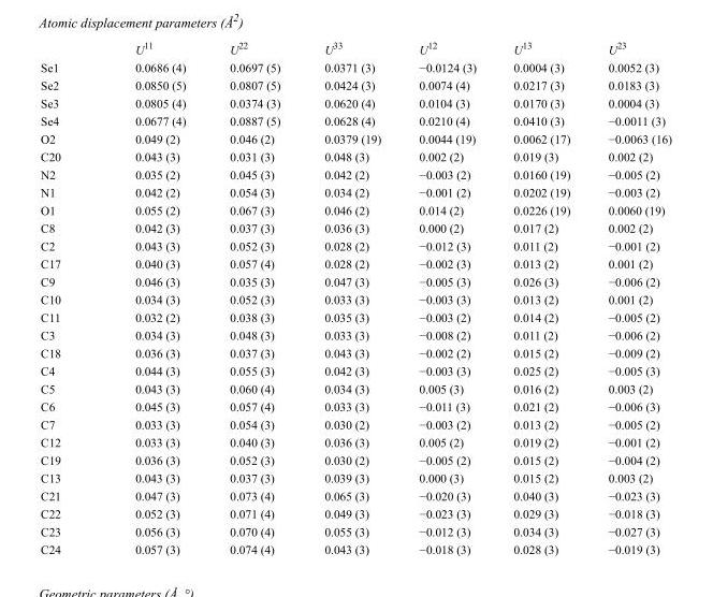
<table><thead><tr><td></td><td>U<sup>11</sup></td><td>U<sup>22</sup></td><td>U<sup>33</sup></td><td>U<sup>12</sup></td><td>U<sup>13</sup></td><td>U<sup>23</sup></td></tr></thead><tbody><tr><td>Se1</td><td>0.0686 (4)</td><td>0.0697 (5)</td><td>0.0371 (3)</td><td>−0.0124 (3)</td><td>0.0004 (3)</td><td>0.0052 (3)</td></tr><tr><td>Se2</td><td>0.0850 (5)</td><td>0.0807 (5)</td><td>0.0424 (3)</td><td>0.0074 (4)</td><td>0.0217 (3)</td><td>0.0183 (3)</td></tr><tr><td>Se3</td><td>0.0805 (4)</td><td>0.0374 (3)</td><td>0.0620 (4)</td><td>0.0104 (3)</td><td>0.0170 (3)</td><td>0.0004 (3)</td></tr><tr><td>Se4</td><td>0.0677 (4)</td><td>0.0887 (5)</td><td>0.0628 (4)</td><td>0.0210 (4)</td><td>0.0410 (3)</td><td>−0.0011 (3)</td></tr><tr><td>O2</td><td>0.049 (2)</td><td>0.046 (2)</td><td>0.0379 (19)</td><td>0.0044 (19)</td><td>0.0062 (17)</td><td>−0.0063 (16)</td></tr><tr><td>C20</td><td>0.043 (3)</td><td>0.031 (3)</td><td>0.048 (3)</td><td>0.002 (2)</td><td>0.019 (3)</td><td>0.002 (2)</td></tr><tr><td>N2</td><td>0.035 (2)</td><td>0.045 (3)</td><td>0.042 (2)</td><td>−0.003 (2)</td><td>0.0160 (19)</td><td>−0.005 (2)</td></tr><tr><td>N1</td><td>0.042 (2)</td><td>0.054 (3)</td><td>0.034 (2)</td><td>−0.001 (2)</td><td>0.0202 (19)</td><td>−0.003 (2)</td></tr><tr><td>O1</td><td>0.055 (2)</td><td>0.067 (3)</td><td>0.046 (2)</td><td>0.014 (2)</td><td>0.0226 (19)</td><td>0.0060 (19)</td></tr><tr><td>C8</td><td>0.042 (3)</td><td>0.037 (3)</td><td>0.036 (3)</td><td>0.000 (2)</td><td>0.017 (2)</td><td>0.002 (2)</td></tr><tr><td>C2</td><td>0.043 (3)</td><td>0.052 (3)</td><td>0.028 (2)</td><td>−0.012 (3)</td><td>0.011 (2)</td><td>−0.001 (2)</td></tr><tr><td>C17</td><td>0.040 (3)</td><td>0.057 (4)</td><td>0.028 (2)</td><td>−0.002 (3)</td><td>0.013 (2)</td><td>0.001 (2)</td></tr><tr><td>C9</td><td>0.046 (3)</td><td>0.035 (3)</td><td>0.047 (3)</td><td>−0.005 (3)</td><td>0.026 (3)</td><td>−0.006 (2)</td></tr><tr><td>C10</td><td>0.034 (3)</td><td>0.052 (3)</td><td>0.033 (3)</td><td>−0.003 (3)</td><td>0.013 (2)</td><td>0.001 (2)</td></tr><tr><td>C11</td><td>0.032 (2)</td><td>0.038 (3)</td><td>0.035 (3)</td><td>−0.003 (2)</td><td>0.014 (2)</td><td>−0.005 (2)</td></tr><tr><td>C3</td><td>0.034 (3)</td><td>0.048 (3)</td><td>0.033 (3)</td><td>−0.008 (2)</td><td>0.011 (2)</td><td>−0.006 (2)</td></tr><tr><td>C18</td><td>0.036 (3)</td><td>0.037 (3)</td><td>0.043 (3)</td><td>−0.002 (2)</td><td>0.015 (2)</td><td>−0.009 (2)</td></tr><tr><td>C4</td><td>0.044 (3)</td><td>0.055 (3)</td><td>0.042 (3)</td><td>−0.003 (3)</td><td>0.025 (2)</td><td>−0.005 (3)</td></tr><tr><td>C5</td><td>0.043 (3)</td><td>0.060 (4)</td><td>0.034 (3)</td><td>0.005 (3)</td><td>0.016 (2)</td><td>0.003 (2)</td></tr><tr><td>C6</td><td>0.045 (3)</td><td>0.057 (4)</td><td>0.033 (3)</td><td>−0.011 (3)</td><td>0.021 (2)</td><td>−0.006 (3)</td></tr><tr><td>C7</td><td>0.033 (3)</td><td>0.054 (3)</td><td>0.030 (2)</td><td>−0.003 (2)</td><td>0.013 (2)</td><td>−0.005 (2)</td></tr><tr><td>C12</td><td>0.033 (3)</td><td>0.040 (3)</td><td>0.036 (3)</td><td>0.005 (2)</td><td>0.019 (2)</td><td>−0.001 (2)</td></tr><tr><td>C19</td><td>0.036 (3)</td><td>0.052 (3)</td><td>0.030 (2)</td><td>−0.005 (2)</td><td>0.015 (2)</td><td>−0.004 (2)</td></tr><tr><td>C13</td><td>0.043 (3)</td><td>0.037 (3)</td><td>0.039 (3)</td><td>0.000 (3)</td><td>0.015 (2)</td><td>0.003 (2)</td></tr><tr><td>C21</td><td>0.047 (3)</td><td>0.073 (4)</td><td>0.065 (3)</td><td>−0.020 (3)</td><td>0.040 (3)</td><td>−0.023 (3)</td></tr><tr><td>C22</td><td>0.052 (3)</td><td>0.071 (4)</td><td>0.049 (3)</td><td>−0.023 (3)</td><td>0.029 (3)</td><td>−0.018 (3)</td></tr><tr><td>C23</td><td>0.056 (3)</td><td>0.070 (4)</td><td>0.055 (3)</td><td>−0.012 (3)</td><td>0.034 (3)</td><td>−0.027 (3)</td></tr><tr><td>C24</td><td>0.057 (3)</td><td>0.074 (4)</td><td>0.043 (3)</td><td>−0.018 (3)</td><td>0.028 (3)</td><td>−0.019 (3)</td></tr></tbody></table>